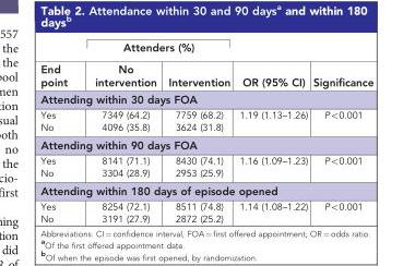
<table><thead><tr><td rowspan="2">End point</td><td colspan="2">Attenders (%)</td><td rowspan="2">OR (95% CI)</td><td rowspan="2">Significance</td></tr><tr><td>No intervention</td><td>Intervention</td></tr></thead><tbody><tr><td colspan="5">Attending within 30 days FOA</td></tr><tr><td>Yes</td><td>7349 (64.2)</td><td>7759 (68.2)</td><td>1.19 (1.13–1.26)</td><td>P&lt;0.001</td></tr><tr><td>No</td><td>4096 (35.8)</td><td>3624 (31.8)</td><td></td><td></td></tr><tr><td colspan="5">Attending within 90 days FOA</td></tr><tr><td>Yes</td><td>8141 (71.1)</td><td>8430 (74.1)</td><td>1.16 (1.09–1.23)</td><td>P&lt;0.001</td></tr><tr><td>No</td><td>3304 (28.9)</td><td>2953 (25.9)</td><td></td><td></td></tr><tr><td colspan="5">Attending within 180 days of episode opened</td></tr><tr><td>Yes</td><td>8254 (72.1)</td><td>8511 (74.8)</td><td>1.14 (1.08–1.22)</td><td>P&lt;0.001</td></tr><tr><td>No</td><td>3191 (27.9)</td><td>2872 (25.2)</td><td></td><td></td></tr></tbody></table>